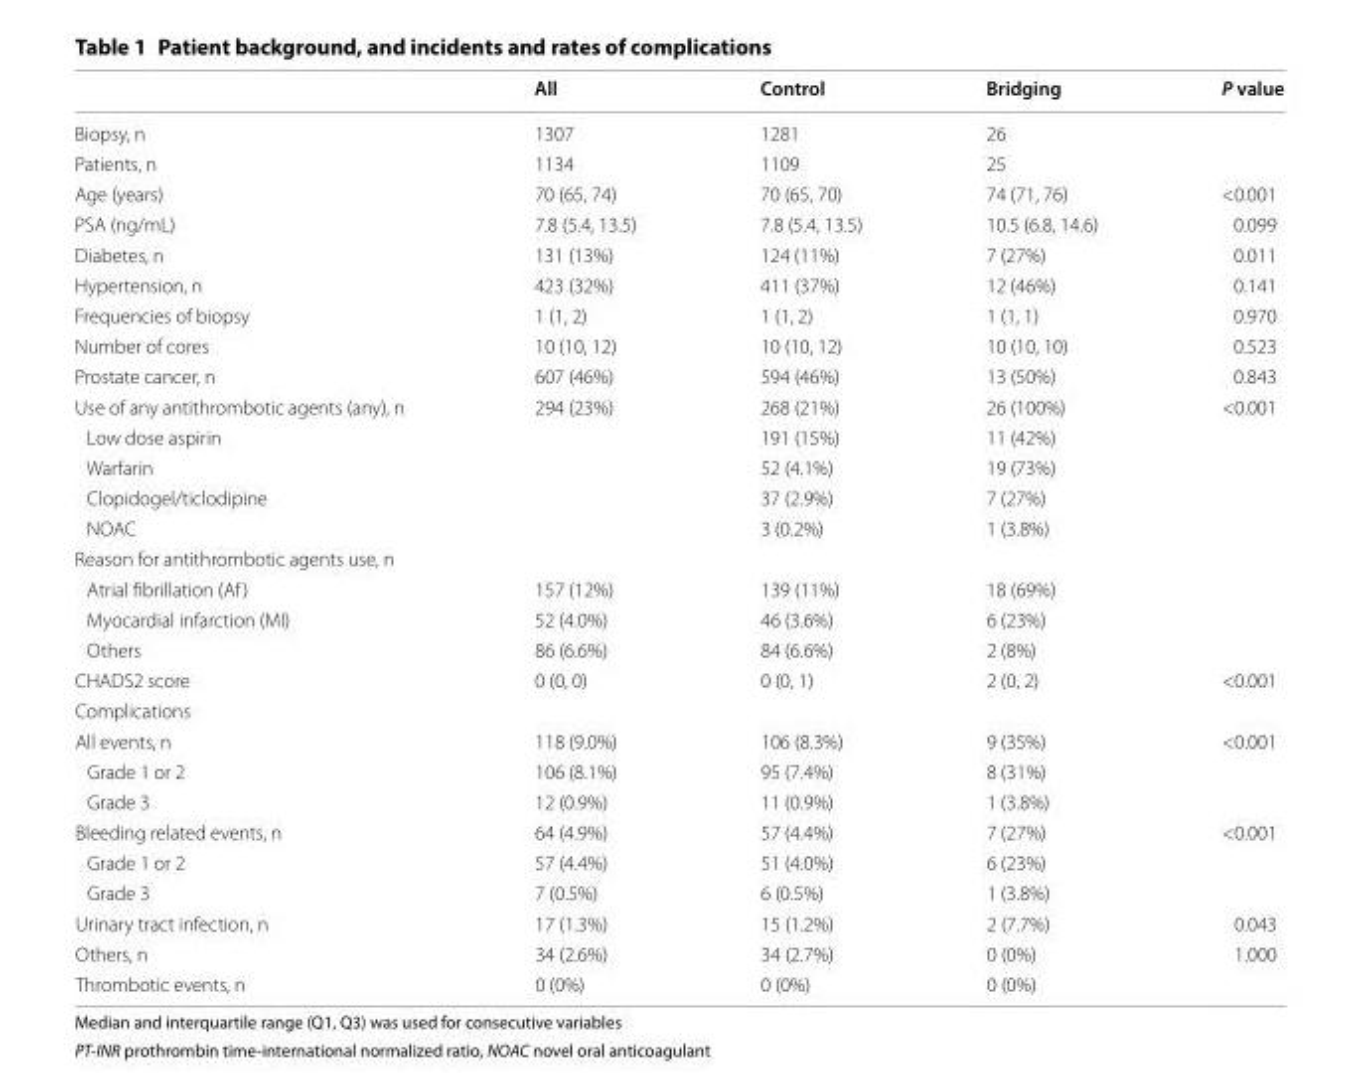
<table><thead><tr><td></td><td>All</td><td>Control</td><td>Bridging</td><td>P value</td></tr></thead><tbody><tr><td>Biopsy, n</td><td>1307</td><td>1281</td><td>26</td><td></td></tr><tr><td>Patients, n</td><td>1134</td><td>1109</td><td>25</td><td></td></tr><tr><td>Age (years)</td><td>70 (65, 74)</td><td>70 (65, 70)</td><td>74 (71, 76)</td><td>&lt;0.001</td></tr><tr><td>PSA (ng/mL)</td><td>7.8 (5.4, 13.5)</td><td>7.8 (5.4, 13.5)</td><td>10.5 (6.8, 14.6)</td><td>0.099</td></tr><tr><td>Diabetes, n</td><td>131 (13%)</td><td>124 (11%)</td><td>7 (27%)</td><td>0.011</td></tr><tr><td>Hypertension, n</td><td>423 (32%)</td><td>411 (37%)</td><td>12 (46%)</td><td>0.141</td></tr><tr><td>Frequencies of biopsy</td><td>1 (1, 2)</td><td>1 (1, 2)</td><td>1 (1, 1)</td><td>0.970</td></tr><tr><td>Number of cores</td><td>10 (10, 12)</td><td>10 (10, 12)</td><td>10 (10, 10)</td><td>0.523</td></tr><tr><td>Prostate cancer, n</td><td>607 (46%)</td><td>594 (46%)</td><td>13 (50%)</td><td>0.843</td></tr><tr><td>Use of any antithrombotic agents (any), n</td><td>294 (23%)</td><td>268 (21%)</td><td>26 (100%)</td><td>&lt;0.001</td></tr><tr><td>Low dose aspirin</td><td></td><td>191 (15%)</td><td>11 (42%)</td><td></td></tr><tr><td>Warfarin</td><td></td><td>52 (4.1%)</td><td>19 (73%)</td><td></td></tr><tr><td>Clopidogel/ticlodipine</td><td></td><td>37 (2.9%)</td><td>7 (27%)</td><td></td></tr><tr><td>NOAC</td><td></td><td>3 (0.2%)</td><td>1 (3.8%)</td><td></td></tr><tr><td colspan="5">Reason for antithrombotic agents use, n</td></tr><tr><td>Atrial fibrillation (Af)</td><td>157 (12%)</td><td>139 (11%)</td><td>18 (69%)</td><td></td></tr><tr><td>Myocardial infarction (MI)</td><td>52 (4.0%)</td><td>46 (3.6%)</td><td>6 (23%)</td><td></td></tr><tr><td>Others</td><td>86 (6.6%)</td><td>84 (6.6%)</td><td>2 (8%)</td><td></td></tr><tr><td>CHADS2 score</td><td>0 (0, 0)</td><td>0 (0, 1)</td><td>2 (0, 2)</td><td>&lt;0.001</td></tr><tr><td colspan="5">Complications</td></tr><tr><td>All events, n</td><td>118 (9.0%)</td><td>106 (8.3%)</td><td>9 (35%)</td><td>&lt;0.001</td></tr><tr><td>Grade 1 or 2</td><td>106 (8.1%)</td><td>95 (7.4%)</td><td>8 (31%)</td><td></td></tr><tr><td>Grade 3</td><td>12 (0.9%)</td><td>11 (0.9%)</td><td>1 (3.8%)</td><td></td></tr><tr><td>Bleeding related events, n</td><td>64 (4.9%)</td><td>57 (4.4%)</td><td>7 (27%)</td><td>&lt;0.001</td></tr><tr><td>Grade 1 or 2</td><td>57 (4.4%)</td><td>51 (4.0%)</td><td>6 (23%)</td><td></td></tr><tr><td>Grade 3</td><td>7 (0.5%)</td><td>6 (0.5%)</td><td>1 (3.8%)</td><td></td></tr><tr><td>Urinary tract infection, n</td><td>17 (1.3%)</td><td>15 (1.2%)</td><td>2 (7.7%)</td><td>0.043</td></tr><tr><td>Others, n</td><td>34 (2.6%)</td><td>34 (2.7%)</td><td>0 (0%)</td><td>1.000</td></tr><tr><td>Thrombotic events, n</td><td>0 (0%)</td><td>0 (0%)</td><td>0 (0%)</td><td></td></tr></tbody></table>